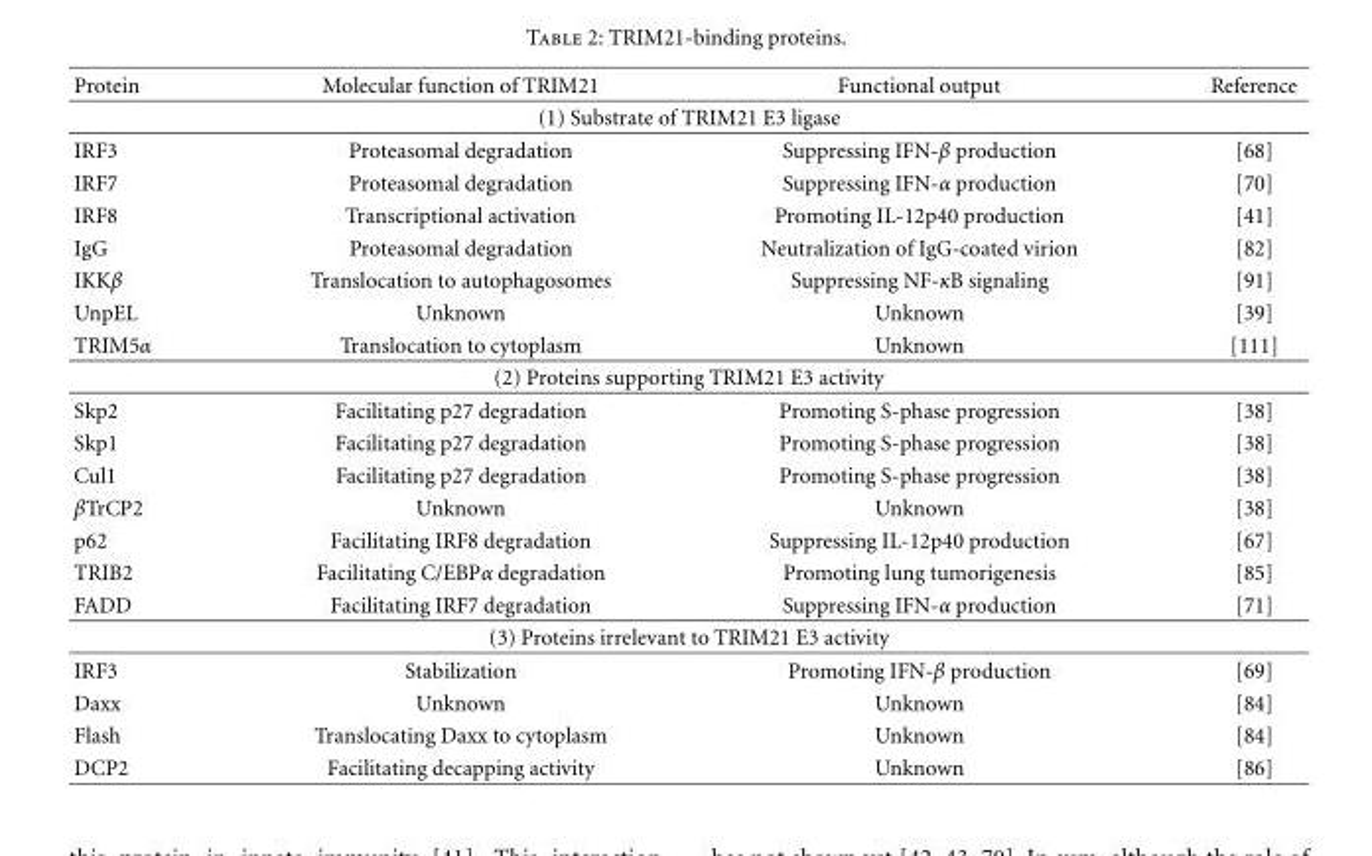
<table><thead><tr><td>Protein</td><td>Molecular function of TRIM21</td><td>Functional output</td><td>Reference</td></tr></thead><tbody><tr><td></td><td colspan="2">(1) Substrate of TRIM21 E3 ligase</td><td></td></tr><tr><td>IRF3</td><td>Proteasomal degradation</td><td>Suppressing IFN-β production</td><td>[68]</td></tr><tr><td>IRF7</td><td>Proteasomal degradation</td><td>Suppressing IFN-α production</td><td>[70]</td></tr><tr><td>IRF8</td><td>Transcriptional activation</td><td>Promoting IL-12p40 production</td><td>[41]</td></tr><tr><td>IgG</td><td>Proteasomal degradation</td><td>Neutralization of IgG-coated virion</td><td>[82]</td></tr><tr><td>IKKβ</td><td>Translocation to autophagosomes</td><td>Suppressing NF-κB signaling</td><td>[91]</td></tr><tr><td>UnpEL</td><td>Unknown</td><td>Unknown</td><td>[39]</td></tr><tr><td rowspan="2">TRIM5α</td><td>Translocation to cytoplasm</td><td>Unknown</td><td>[111]</td></tr><tr><td colspan="2">(2) Proteins supporting TRIM21 E3 activity</td><td></td></tr><tr><td>Skp2</td><td>Facilitating p27 degradation</td><td>Promoting S-phase progression</td><td>[38]</td></tr><tr><td>Skp1</td><td>Facilitating p27 degradation</td><td>Promoting S-phase progression</td><td>[38]</td></tr><tr><td>Cul1</td><td>Facilitating p27 degradation</td><td>Promoting S-phase progression</td><td>[38]</td></tr><tr><td>βTrCP2</td><td>Unknown</td><td>Unknown</td><td>[38]</td></tr><tr><td>p62</td><td>Facilitating IRF8 degradation</td><td>Suppressing IL-12p40 production</td><td>[67]</td></tr><tr><td>TRIB2</td><td>Facilitating C/EBPα degradation</td><td>Promoting lung tumorigenesis</td><td>[85]</td></tr><tr><td rowspan="2">FADD</td><td>Facilitating IRF7 degradation</td><td>Suppressing IFN-α production</td><td>[71]</td></tr><tr><td colspan="2">(3) Proteins irrelevant to TRIM21 E3 activity</td><td></td></tr><tr><td>IRF3</td><td>Stabilization</td><td>Promoting IFN-β production</td><td>[69]</td></tr><tr><td>Daxx</td><td>Unknown</td><td>Unknown</td><td>[84]</td></tr><tr><td>Flash</td><td>Translocating Daxx to cytoplasm</td><td>Unknown</td><td>[84]</td></tr><tr><td>DCP2</td><td>Facilitating decapping activity</td><td>Unknown</td><td>[86]</td></tr></tbody></table>